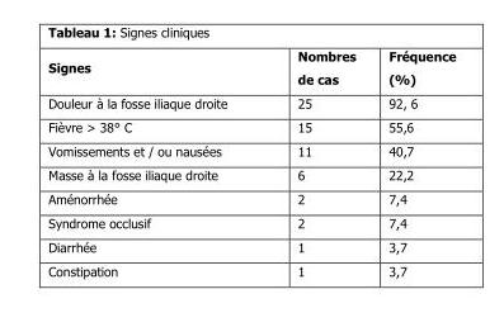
<table><thead><tr><td>Signes</td><td>Nombres de cas</td><td>Fréquence (%)</td></tr></thead><tbody><tr><td>Douleur à la fosse iliaque droite</td><td>25</td><td>92, 6</td></tr><tr><td>Fièvre &gt; 38° C</td><td>15</td><td>55,6</td></tr><tr><td>Vomissements et / ou nausées</td><td>11</td><td>40,7</td></tr><tr><td>Masse à la fosse iliaque droite</td><td>6</td><td>22,2</td></tr><tr><td>Aménorrhée</td><td>2</td><td>7,4</td></tr><tr><td>Syndrome occlusif</td><td>2</td><td>7,4</td></tr><tr><td>Diarrhée</td><td>1</td><td>3,7</td></tr><tr><td>Constipation</td><td>1</td><td>3,7</td></tr></tbody></table>